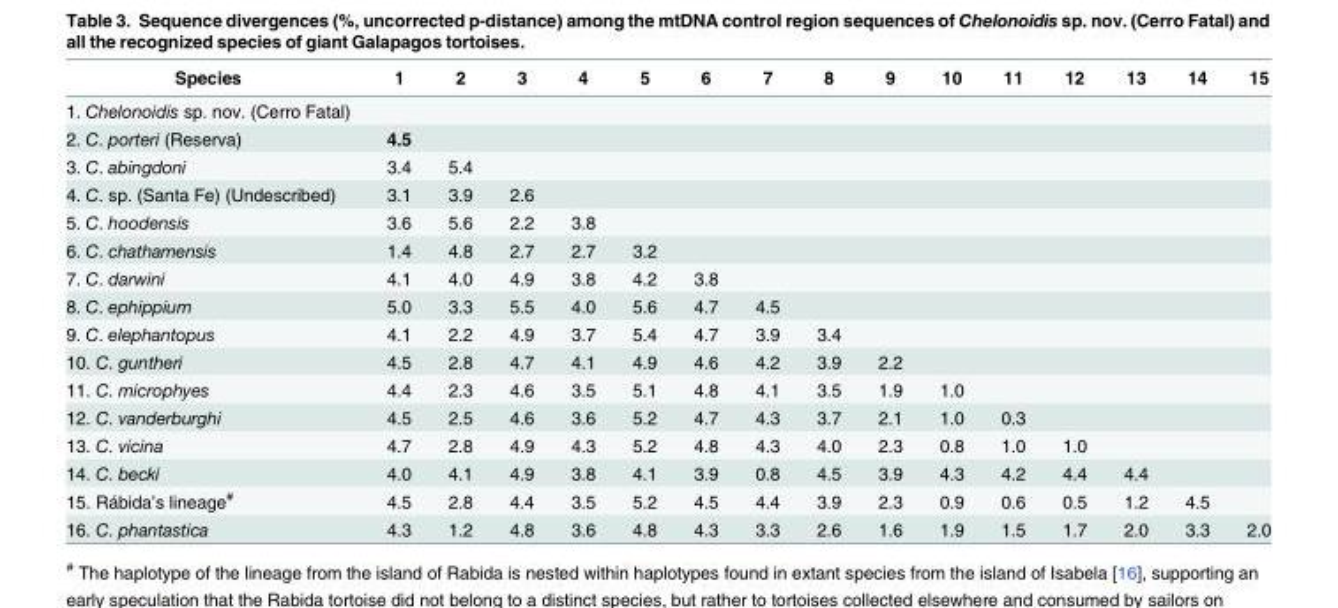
<table><thead><tr><td>Species</td><td>1</td><td>2</td><td>3</td><td>4</td><td>5</td><td>6</td><td>7</td><td>8</td><td>9</td><td>10</td><td>11</td><td>12</td><td>13</td><td>14</td><td>15</td></tr></thead><tbody><tr><td colspan="16">1. Chelonoidis sp. nov. (Cerro Fatal)</td></tr><tr><td>2. C. porteri (Reserva)</td><td>4.5</td><td></td><td></td><td></td><td></td><td></td><td></td><td></td><td></td><td></td><td></td><td></td><td></td><td></td><td></td></tr><tr><td>3. C. abingdoni</td><td>3.4</td><td>5.4</td><td></td><td></td><td></td><td></td><td></td><td></td><td></td><td></td><td></td><td></td><td></td><td></td><td></td></tr><tr><td>4. C. sp. (Santa Fe) (Undescribed)</td><td>3.1</td><td>3.9</td><td>2.6</td><td></td><td></td><td></td><td></td><td></td><td></td><td></td><td></td><td></td><td></td><td></td><td></td></tr><tr><td>5. C. hoodensis</td><td>3.6</td><td>5.6</td><td>2.2</td><td>3.8</td><td></td><td></td><td></td><td></td><td></td><td></td><td></td><td></td><td></td><td></td><td></td></tr><tr><td>6. C. chathamensis</td><td>1.4</td><td>4.8</td><td>2.7</td><td>2.7</td><td>3.2</td><td></td><td></td><td></td><td></td><td></td><td></td><td></td><td></td><td></td><td></td></tr><tr><td>7. C. darwini</td><td>4.1</td><td>4.0</td><td>4.9</td><td>3.8</td><td>4.2</td><td>3.8</td><td></td><td></td><td></td><td></td><td></td><td></td><td></td><td></td><td></td></tr><tr><td>8. C. ephippium</td><td>5.0</td><td>3.3</td><td>5.5</td><td>4.0</td><td>5.6</td><td>4.7</td><td>4.5</td><td></td><td></td><td></td><td></td><td></td><td></td><td></td><td></td></tr><tr><td>9. C. elephantopus</td><td>4.1</td><td>2.2</td><td>4.9</td><td>3.7</td><td>5.4</td><td>4.7</td><td>3.9</td><td>3.4</td><td></td><td></td><td></td><td></td><td></td><td></td><td></td></tr><tr><td>10. C. guntheri</td><td>4.5</td><td>2.8</td><td>4.7</td><td>4.1</td><td>4.9</td><td>4.6</td><td>4.2</td><td>3.9</td><td>2.2</td><td></td><td></td><td></td><td></td><td></td><td></td></tr><tr><td>11. C. microphyes</td><td>4.4</td><td>2.3</td><td>4.6</td><td>3.5</td><td>5.1</td><td>4.8</td><td>4.1</td><td>3.5</td><td>1.9</td><td>1.0</td><td></td><td></td><td></td><td></td><td></td></tr><tr><td>12. C. vanderburghi</td><td>4.5</td><td>2.5</td><td>4.6</td><td>3.6</td><td>5.2</td><td>4.7</td><td>4.3</td><td>3.7</td><td>2.1</td><td>1.0</td><td>0.3</td><td></td><td></td><td></td><td></td></tr><tr><td>13. C. vicina</td><td>4.7</td><td>2.8</td><td>4.9</td><td>4.3</td><td>5.2</td><td>4.8</td><td>4.3</td><td>4.0</td><td>2.3</td><td>0.8</td><td>1.0</td><td>1.0</td><td></td><td></td><td></td></tr><tr><td>14. C. becki</td><td>4.0</td><td>4.1</td><td>4.9</td><td>3.8</td><td>4.1</td><td>3.9</td><td>0.8</td><td>4.5</td><td>3.9</td><td>4.3</td><td>4.2</td><td>4.4</td><td>4.4</td><td></td><td></td></tr><tr><td>15. Rábida’s lineage<sup>#</sup></td><td>4.5</td><td>2.8</td><td>4.4</td><td>3.5</td><td>5.2</td><td>4.5</td><td>4.4</td><td>3.9</td><td>2.3</td><td>0.9</td><td>0.6</td><td>0.5</td><td>1.2</td><td>4.5</td><td></td></tr><tr><td>16. C. phantastica</td><td>4.3</td><td>1.2</td><td>4.8</td><td>3.6</td><td>4.8</td><td>4.3</td><td>3.3</td><td>2.6</td><td>1.6</td><td>1.9</td><td>1.5</td><td>1.7</td><td>2.0</td><td>3.3</td><td>2.0</td></tr></tbody></table>